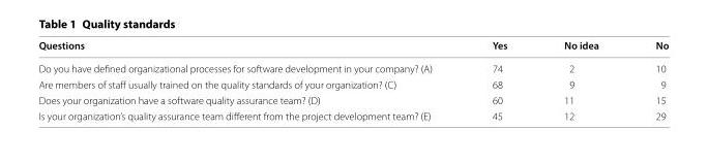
<table><thead><tr><td>Questions</td><td>Yes</td><td>No idea</td><td>No</td></tr></thead><tbody><tr><td>Do you have defined organizational processes for software development in your company? (A)</td><td>74</td><td>2</td><td>10</td></tr><tr><td>Are members of staff usually trained on the quality standards of your organization? (C)</td><td>68</td><td>9</td><td>9</td></tr><tr><td>Does your organization have a software quality assurance team? (D)</td><td>60</td><td>11</td><td>15</td></tr><tr><td>Is your organization’s quality assurance team different from the project development team? (E)</td><td>45</td><td>12</td><td>29</td></tr></tbody></table>